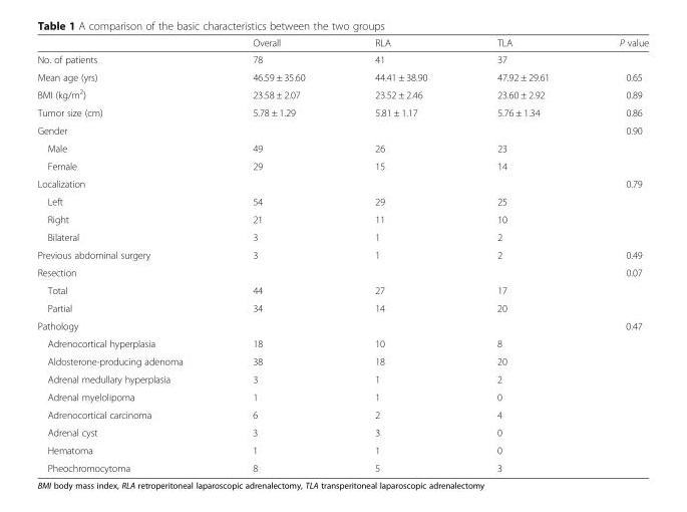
<table><thead><tr><td></td><td>Overall</td><td>RLA</td><td>TLA</td><td>P value</td></tr></thead><tbody><tr><td>No. of patients</td><td>78</td><td>41</td><td>37</td><td></td></tr><tr><td>Mean age (yrs)</td><td>46.59 ± 35.60</td><td>44.41 ± 38.90</td><td>47.92 ± 29.61</td><td>0.65</td></tr><tr><td>BMI (kg/m<sup>2</sup>)</td><td>23.58 ± 2.07</td><td>23.52 ± 2.46</td><td>23.60 ± 2.92</td><td>0.89</td></tr><tr><td>Tumor size (cm)</td><td>5.78 ± 1.29</td><td>5.81 ± 1.17</td><td>5.76 ± 1.34</td><td>0.86</td></tr><tr><td>Gender</td><td></td><td></td><td></td><td>0.90</td></tr><tr><td>Male</td><td>49</td><td>26</td><td>23</td><td></td></tr><tr><td>Female</td><td>29</td><td>15</td><td>14</td><td></td></tr><tr><td>Localization</td><td></td><td></td><td></td><td>0.79</td></tr><tr><td>Left</td><td>54</td><td>29</td><td>25</td><td></td></tr><tr><td>Right</td><td>21</td><td>11</td><td>10</td><td></td></tr><tr><td>Bilateral</td><td>3</td><td>1</td><td>2</td><td></td></tr><tr><td>Previous abdominal surgery</td><td>3</td><td>1</td><td>2</td><td>0.49</td></tr><tr><td>Resection</td><td></td><td></td><td></td><td>0.07</td></tr><tr><td>Total</td><td>44</td><td>27</td><td>17</td><td></td></tr><tr><td>Partial</td><td>34</td><td>14</td><td>20</td><td></td></tr><tr><td>Pathology</td><td></td><td></td><td></td><td>0.47</td></tr><tr><td>Adrenocortical hyperplasia</td><td>18</td><td>10</td><td>8</td><td></td></tr><tr><td>Aldosterone-producing adenoma</td><td>38</td><td>18</td><td>20</td><td></td></tr><tr><td>Adrenal medullary hyperplasia</td><td>3</td><td>1</td><td>2</td><td></td></tr><tr><td>Adrenal myelolipoma</td><td>1</td><td>1</td><td>0</td><td></td></tr><tr><td>Adrenocortical carcinoma</td><td>6</td><td>2</td><td>4</td><td></td></tr><tr><td>Adrenal cyst</td><td>3</td><td>3</td><td>0</td><td></td></tr><tr><td>Hematoma</td><td>1</td><td>1</td><td>0</td><td></td></tr><tr><td>Pheochromocytoma</td><td>8</td><td>5</td><td>3</td><td></td></tr></tbody></table>